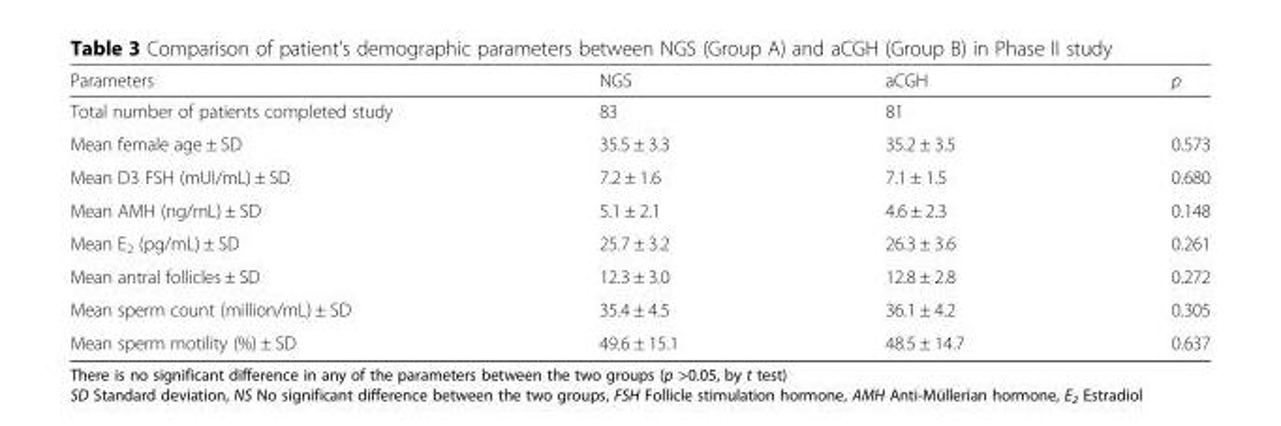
<table><thead><tr><td>Parameters</td><td>NGS</td><td>aCGH</td><td>p</td></tr></thead><tbody><tr><td>Total number of patients completed study</td><td>83</td><td>81</td><td></td></tr><tr><td>Mean female age ± SD</td><td>35.5 ± 3.3</td><td>35.2 ± 3.5</td><td>0.573</td></tr><tr><td>Mean D3 FSH (mUI/mL) ± SD</td><td>7.2 ± 1.6</td><td>7.1 ± 1.5</td><td>0.680</td></tr><tr><td>Mean AMH (ng/mL) ± SD</td><td>5.1 ± 2.1</td><td>4.6 ± 2.3</td><td>0.148</td></tr><tr><td>Mean E<sub>2</sub> (pg/mL) ± SD</td><td>25.7 ± 3.2</td><td>26.3 ± 3.6</td><td>0.261</td></tr><tr><td>Mean antral follicles ± SD</td><td>12.3 ± 3.0</td><td>12.8 ± 2.8</td><td>0.272</td></tr><tr><td>Mean sperm count (million/mL) ± SD</td><td>35.4 ± 4.5</td><td>36.1 ± 4.2</td><td>0.305</td></tr><tr><td>Mean sperm motility (%) ± SD</td><td>49.6 ± 15.1</td><td>48.5 ± 14.7</td><td>0.637</td></tr></tbody></table>